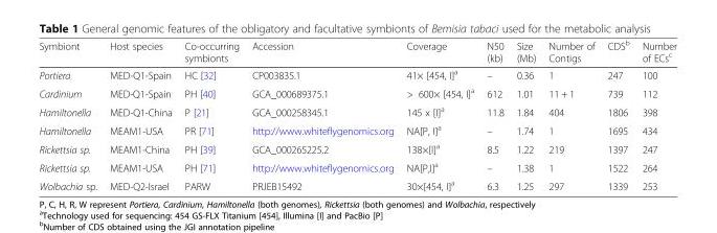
<table><thead><tr><td>Symbiont</td><td>Host species</td><td>Co-occurring symbionts</td><td>Accession</td><td>Coverage</td><td>N50 (kb)</td><td>Size (Mb)</td><td>Number of Contigs</td><td>CDS<sup>b</sup></td><td>Number of ECs<sup>c</sup></td></tr></thead><tbody><tr><td>Portiera</td><td>MED-Q1-Spain</td><td>HC [32]</td><td>CP003835.1</td><td>41× [454, I]<sup>a</sup></td><td>–</td><td>0.36</td><td>1</td><td>247</td><td>100</td></tr><tr><td>Cardinium</td><td>MED-Q1-Spain</td><td>PH [40]</td><td>GCA_000689375.1</td><td>&gt; 600× [454, I]<sup>a</sup></td><td>612</td><td>1.01</td><td>11 + 1</td><td>739</td><td>112</td></tr><tr><td>Hamiltonella</td><td>MED-Q1-China</td><td>P [21]</td><td>GCA_000258345.1</td><td>145 x [I]<sup>a</sup></td><td>11.8</td><td>1.84</td><td>404</td><td>1806</td><td>398</td></tr><tr><td>Hamiltonella</td><td>MEAM1-USA</td><td>PR [71]</td><td>http://www.whiteflygenomics.org</td><td>NA[P, I]<sup>a</sup></td><td>–</td><td>1.74</td><td>1</td><td>1695</td><td>434</td></tr><tr><td>Rickettsia sp.</td><td>MEAM1-China</td><td>PH [39]</td><td>GCA_000265225.2</td><td>138×[I]<sup>a</sup></td><td>8.5</td><td>1.22</td><td>219</td><td>1397</td><td>247</td></tr><tr><td>Rickettsia sp.</td><td>MEAM1-USA</td><td>PH [71]</td><td>http://www.whiteflygenomics.org</td><td>NA[P,I]<sup>a</sup></td><td>–</td><td>1.38</td><td>1</td><td>1522</td><td>264</td></tr><tr><td>Wolbachia sp.</td><td>MED-Q2-Israel</td><td>PARW</td><td>PRJEB15492</td><td>30×[454, I]<sup>a</sup></td><td>6.3</td><td>1.25</td><td>297</td><td>1339</td><td>253</td></tr></tbody></table>